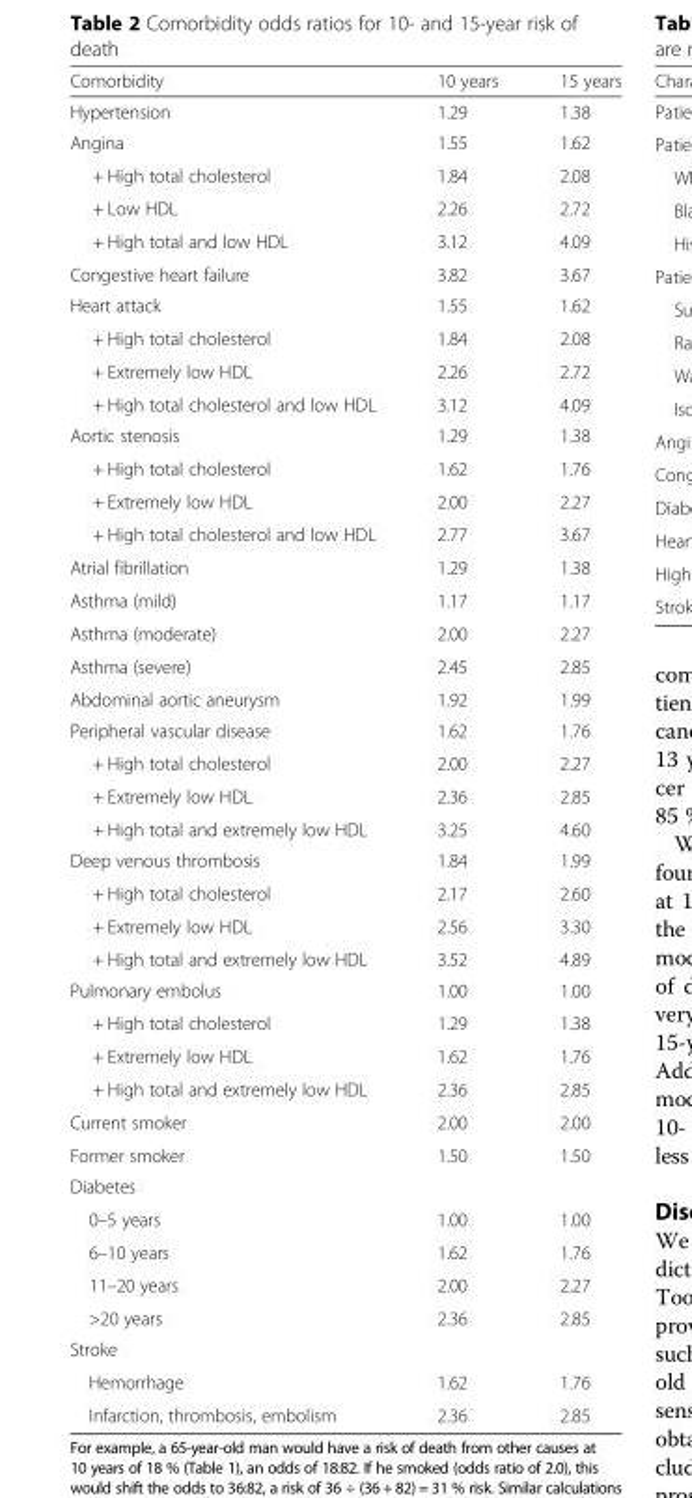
<table><thead><tr><td>Comorbidity</td><td>10 years</td><td>15 years</td></tr></thead><tbody><tr><td>Hypertension</td><td>1.29</td><td>1.38</td></tr><tr><td>Angina</td><td>1.55</td><td>1.62</td></tr><tr><td>+ High total cholesterol</td><td>1.84</td><td>2.08</td></tr><tr><td>+ Low HDL</td><td>2.26</td><td>2.72</td></tr><tr><td>+ High total and low HDL</td><td>3.12</td><td>4.09</td></tr><tr><td>Congestive heart failure</td><td>3.82</td><td>3.67</td></tr><tr><td>Heart attack</td><td>1.55</td><td>1.62</td></tr><tr><td>+ High total cholesterol</td><td>1.84</td><td>2.08</td></tr><tr><td>+ Extremely low HDL</td><td>2.26</td><td>2.72</td></tr><tr><td>+ High total cholesterol and low HDL</td><td>3.12</td><td>4.09</td></tr><tr><td>Aortic stenosis</td><td>1.29</td><td>1.38</td></tr><tr><td>+ High total cholesterol</td><td>1.62</td><td>1.76</td></tr><tr><td>+ Extremely low HDL</td><td>2.00</td><td>2.27</td></tr><tr><td>+ High total cholesterol and low HDL</td><td>2.77</td><td>3.67</td></tr><tr><td>Atrial fibrillation</td><td>1.29</td><td>1.38</td></tr><tr><td>Asthma (mild)</td><td>1.17</td><td>1.17</td></tr><tr><td>Asthma (moderate)</td><td>2.00</td><td>2.27</td></tr><tr><td>Asthma (severe)</td><td>2.45</td><td>2.85</td></tr><tr><td>Abdominal aortic aneurysm</td><td>1.92</td><td>1.99</td></tr><tr><td>Peripheral vascular disease</td><td>1.62</td><td>1.76</td></tr><tr><td>+ High total cholesterol</td><td>2.00</td><td>2.27</td></tr><tr><td>+ Extremely low HDL</td><td>2.36</td><td>2.85</td></tr><tr><td>+ High total and extremely low HDL</td><td>3.25</td><td>4.60</td></tr><tr><td>Deep venous thrombosis</td><td>1.84</td><td>1.99</td></tr><tr><td>+ High total cholesterol</td><td>2.17</td><td>2.60</td></tr><tr><td>+ Extremely low HDL</td><td>2.56</td><td>3.30</td></tr><tr><td>+ High total and extremely low HDL</td><td>3.52</td><td>4.89</td></tr><tr><td>Pulmonary embolus</td><td>1.00</td><td>1.00</td></tr><tr><td>+ High total cholesterol</td><td>1.29</td><td>1.38</td></tr><tr><td>+ Extremely low HDL</td><td>1.62</td><td>1.76</td></tr><tr><td>+ High total and extremely low HDL</td><td>2.36</td><td>2.85</td></tr><tr><td>Current smoker</td><td>2.00</td><td>2.00</td></tr><tr><td>Former smoker</td><td>1.50</td><td>1.50</td></tr><tr><td colspan="3">Diabetes</td></tr><tr><td>0–5 years</td><td>1.00</td><td>1.00</td></tr><tr><td>6–10 years</td><td>1.62</td><td>1.76</td></tr><tr><td>11–20 years</td><td>2.00</td><td>2.27</td></tr><tr><td>&gt;20 years</td><td>2.36</td><td>2.85</td></tr><tr><td colspan="3">Stroke</td></tr><tr><td>Hemorrhage</td><td>1.62</td><td>1.76</td></tr><tr><td>Infarction, thrombosis, embolism</td><td>2.36</td><td>2.85</td></tr></tbody></table>